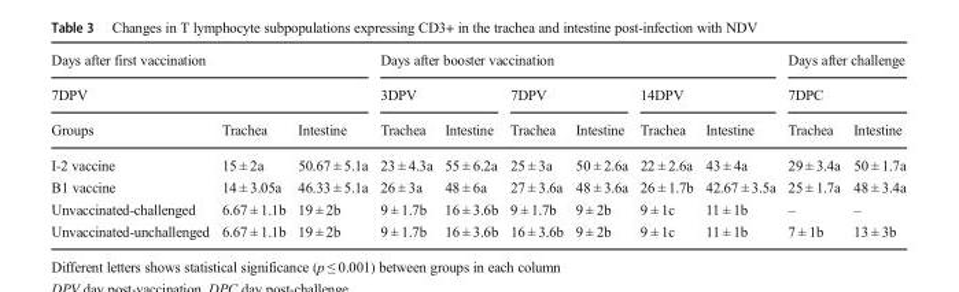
<table><thead><tr><td rowspan="2" colspan="3">Days after first vaccination 7DPV</td><td colspan="6">Days after booster vaccination</td><td rowspan="2" colspan="2">Days after challenge 7DPC</td></tr><tr><td colspan="2">3DPV</td><td colspan="2">7DPV</td><td colspan="2">14DPV</td></tr><tr><td>Groups</td><td>Trachea</td><td>Intestine</td><td>Trachea</td><td>Intestine</td><td>Trachea</td><td>Intestine</td><td>Trachea</td><td>Intestine</td><td>Trachea</td><td>Intestine</td></tr></thead><tbody><tr><td>I-2 vaccine</td><td>15 ± 2a</td><td>50.67 ± 5.1a</td><td>23 ± 4.3a</td><td>55 ± 6.2a</td><td>25 ± 3a</td><td>50 ± 2.6a</td><td>22 ± 2.6a</td><td>43 ± 4a</td><td>29 ± 3.4a</td><td>50 ± 1.7a</td></tr><tr><td>B1 vaccine</td><td>14 ± 3.05a</td><td>46.33 ± 5.1a</td><td>26 ± 3a</td><td>48 ± 6a</td><td>27 ± 3.6a</td><td>48 ± 3.6a</td><td>26 ± 1.7b</td><td>42.67 ± 3.5a</td><td>25 ± 1.7a</td><td>48 ± 3.4a</td></tr><tr><td>Unvaccinated-challenged</td><td>6.67 ± 1.1b</td><td>19 ± 2b</td><td>9 ± 1.7b</td><td>16 ± 3.6b</td><td>9 ± 1.7b</td><td>9 ± 2b</td><td>9 ± 1c</td><td>11 ± 1b</td><td>–</td><td>–</td></tr><tr><td>Unvaccinated-unchallenged</td><td>6.67 ± 1.1b</td><td>19 ± 2b</td><td>9 ± 1.7b</td><td>16 ± 3.6b</td><td>16 ± 3.6b</td><td>9 ± 2b</td><td>9 ± 1c</td><td>11 ± 1b</td><td>7 ± 1b</td><td>13 ± 3b</td></tr></tbody></table>